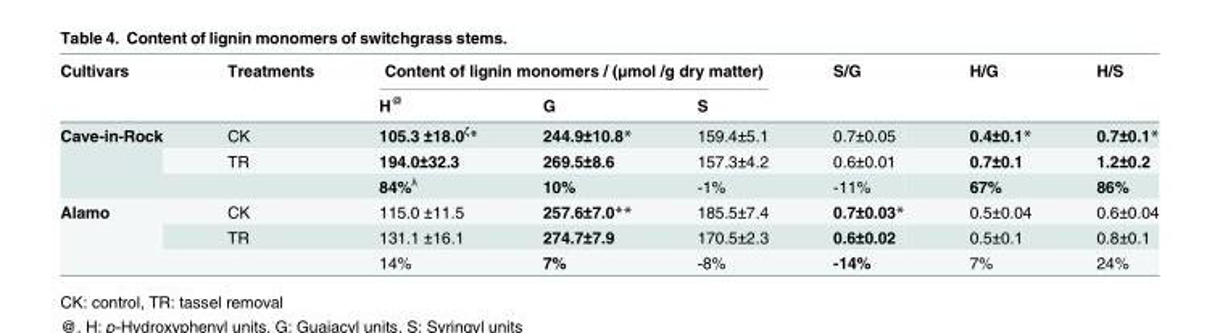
<table><thead><tr><td rowspan="2">Cultivars</td><td rowspan="2">Treatments</td><td colspan="3">Content of lignin monomers / (μmol /g dry matter)</td><td rowspan="2">S/G</td><td rowspan="2">H/G</td><td rowspan="2">H/S</td></tr><tr><td>H<sup>@</sup></td><td>G</td><td>S</td></tr></thead><tbody><tr><td rowspan="3">Cave-in-Rock</td><td>CK</td><td>105.3 ±18.0<sup>ζ</sup>*</td><td>244.9±10.8*</td><td>159.4±5.1</td><td>0.7±0.05</td><td>0.4±0.1*</td><td>0.7±0.1*</td></tr><tr><td>TR</td><td>194.0±32.3</td><td>269.5±8.6</td><td>157.3±4.2</td><td>0.6±0.01</td><td>0.7±0.1</td><td>1.2±0.2</td></tr><tr><td></td><td>84%<sup>λ</sup></td><td>10%</td><td>-1%</td><td>-11%</td><td>67%</td><td>86%</td></tr><tr><td rowspan="3">Alamo</td><td>CK</td><td>115.0 ±11.5</td><td>257.6±7.0**</td><td>185.5±7.4</td><td>0.7±0.03*</td><td>0.5±0.04</td><td>0.6±0.04</td></tr><tr><td>TR</td><td>131.1 ±16.1</td><td>274.7±7.9</td><td>170.5±2.3</td><td>0.6±0.02</td><td>0.5±0.1</td><td>0.8±0.1</td></tr><tr><td></td><td>14%</td><td>7%</td><td>-8%</td><td>-14%</td><td>7%</td><td>24%</td></tr></tbody></table>